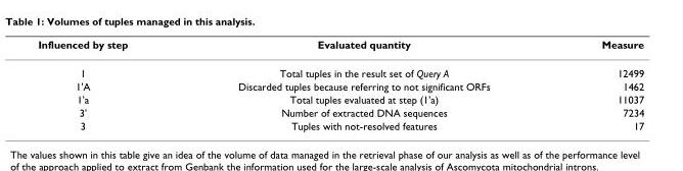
<table><thead><tr><td>Influenced by step</td><td>Evaluated quantity</td><td>Measure</td></tr></thead><tbody><tr><td>1</td><td>Total tuples in the result set of Query A</td><td>12499</td></tr><tr><td>1&#x27;A</td><td>Discarded tuples because referring to not significant ORFs</td><td>1462</td></tr><tr><td>1&#x27;a</td><td>Total tuples evaluated at step (1&#x27;a)</td><td>11037</td></tr><tr><td>3&#x27;</td><td>Number of extracted DNA sequences</td><td>7234</td></tr><tr><td>3</td><td>Tuples with not-resolved features</td><td>17</td></tr></tbody></table>